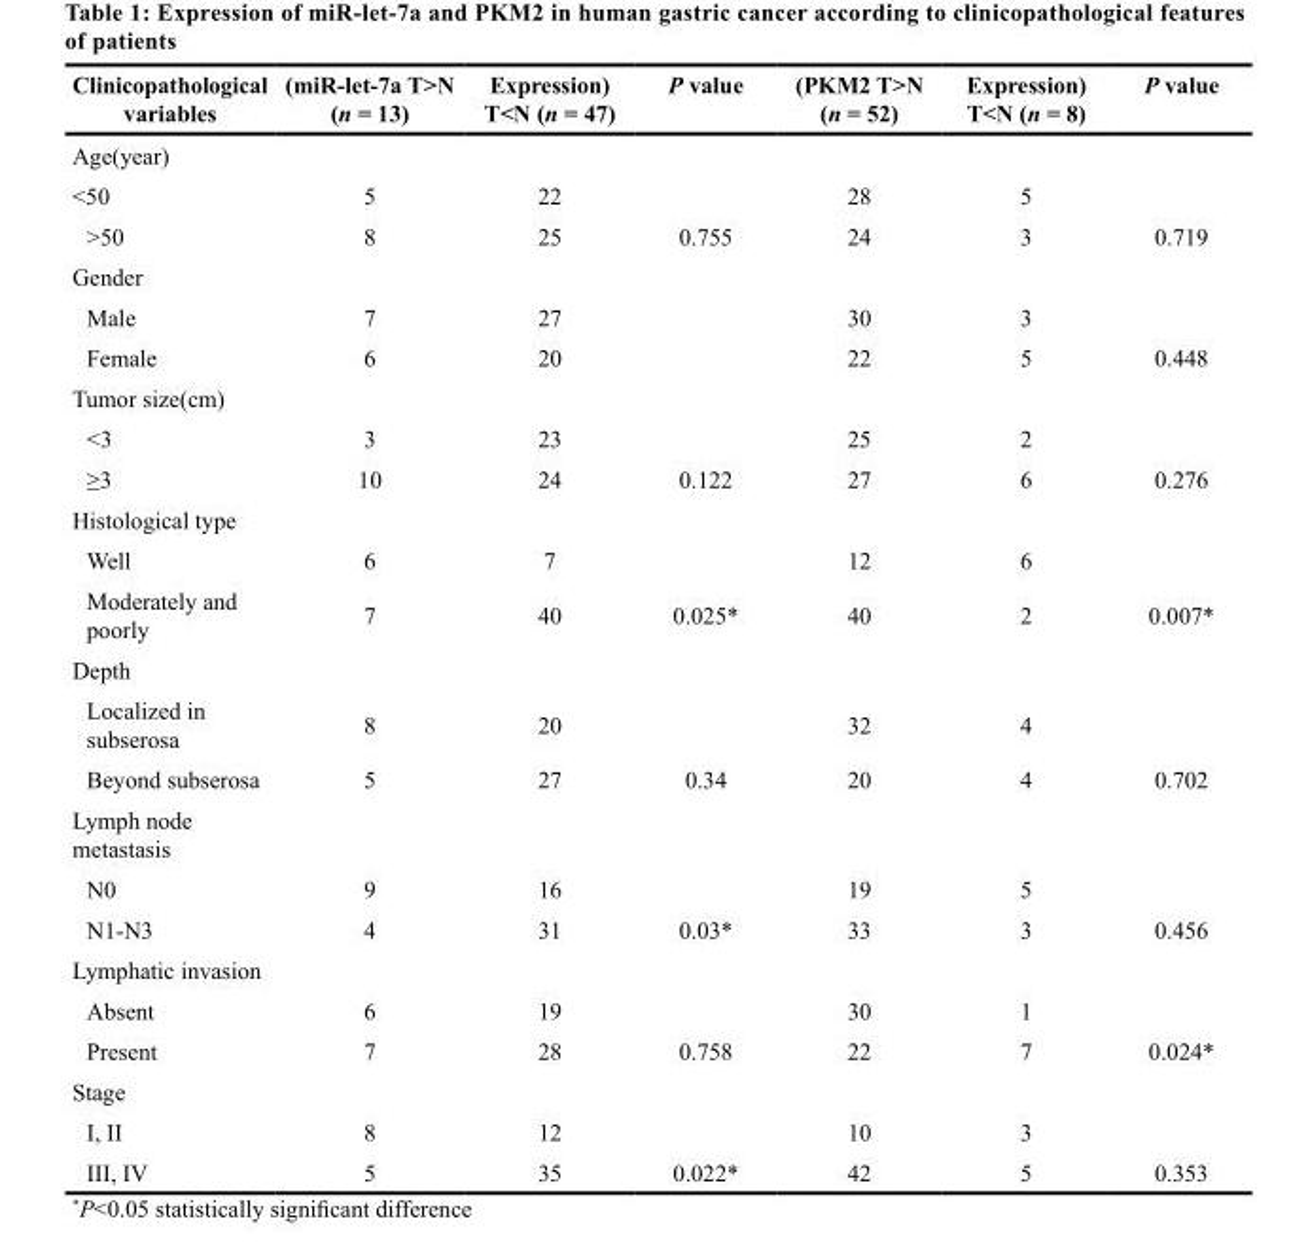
<table><thead><tr><td>Clinicopathological variables</td><td>(miR-let-7a T&gt;N (n = 13)</td><td>Expression) T&lt;N (n = 47)</td><td>P value</td><td>(PKM2 T&gt;N (n = 52)</td><td>Expression) T&lt;N (n = 8)</td><td>P value</td></tr></thead><tbody><tr><td colspan="7">Age(year)</td></tr><tr><td>&lt;50</td><td>5</td><td>22</td><td></td><td>28</td><td>5</td><td></td></tr><tr><td>&gt;50</td><td>8</td><td>25</td><td>0.755</td><td>24</td><td>3</td><td>0.719</td></tr><tr><td colspan="7">Gender</td></tr><tr><td>Male</td><td>7</td><td>27</td><td></td><td>30</td><td>3</td><td></td></tr><tr><td>Female</td><td>6</td><td>20</td><td></td><td>22</td><td>5</td><td>0.448</td></tr><tr><td colspan="7">Tumor size(cm)</td></tr><tr><td>&lt;3</td><td>3</td><td>23</td><td></td><td>25</td><td>2</td><td></td></tr><tr><td>≥3</td><td>10</td><td>24</td><td>0.122</td><td>27</td><td>6</td><td>0.276</td></tr><tr><td colspan="7">Histological type</td></tr><tr><td>Well</td><td>6</td><td>7</td><td></td><td>12</td><td>6</td><td></td></tr><tr><td>Moderately and poorly</td><td>7</td><td>40</td><td>0.025*</td><td>40</td><td>2</td><td>0.007*</td></tr><tr><td colspan="7">Depth</td></tr><tr><td>Localized in subserosa</td><td>8</td><td>20</td><td></td><td>32</td><td>4</td><td></td></tr><tr><td>Beyond subserosa</td><td>5</td><td>27</td><td>0.34</td><td>20</td><td>4</td><td>0.702</td></tr><tr><td colspan="7">Lymph node metastasis</td></tr><tr><td>N0</td><td>9</td><td>16</td><td></td><td>19</td><td>5</td><td></td></tr><tr><td>N1-N3</td><td>4</td><td>31</td><td>0.03*</td><td>33</td><td>3</td><td>0.456</td></tr><tr><td colspan="7">Lymphatic invasion</td></tr><tr><td>Absent</td><td>6</td><td>19</td><td></td><td>30</td><td>1</td><td></td></tr><tr><td>Present</td><td>7</td><td>28</td><td>0.758</td><td>22</td><td>7</td><td>0.024*</td></tr><tr><td colspan="7">Stage</td></tr><tr><td>I, II</td><td>8</td><td>12</td><td></td><td>10</td><td>3</td><td></td></tr><tr><td>III, IV</td><td>5</td><td>35</td><td>0.022*</td><td>42</td><td>5</td><td>0.353</td></tr></tbody></table>